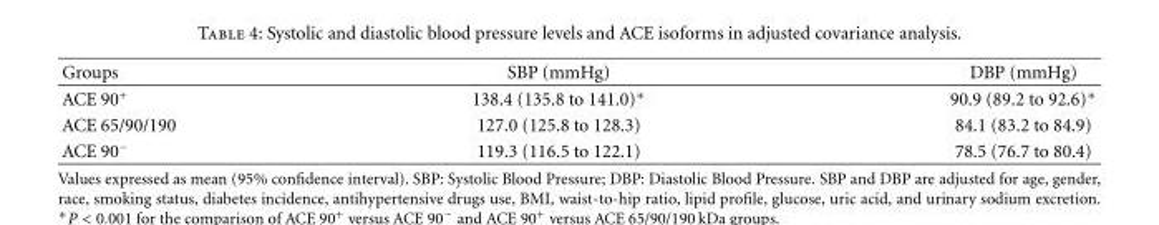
<table><thead><tr><td>Groups</td><td>SBP (mmHg)</td><td>DBP (mmHg)</td></tr></thead><tbody><tr><td>ACE 90<sup>+</sup></td><td>138.4 (135.8 to 141.0)∗</td><td>90.9 (89.2 to 92.6)∗</td></tr><tr><td>ACE 65/90/190</td><td>127.0 (125.8 to 128.3)</td><td>84.1 (83.2 to 84.9)</td></tr><tr><td>ACE 90<sup>−</sup></td><td>119.3 (116.5 to 122.1)</td><td>78.5 (76.7 to 80.4)</td></tr></tbody></table>